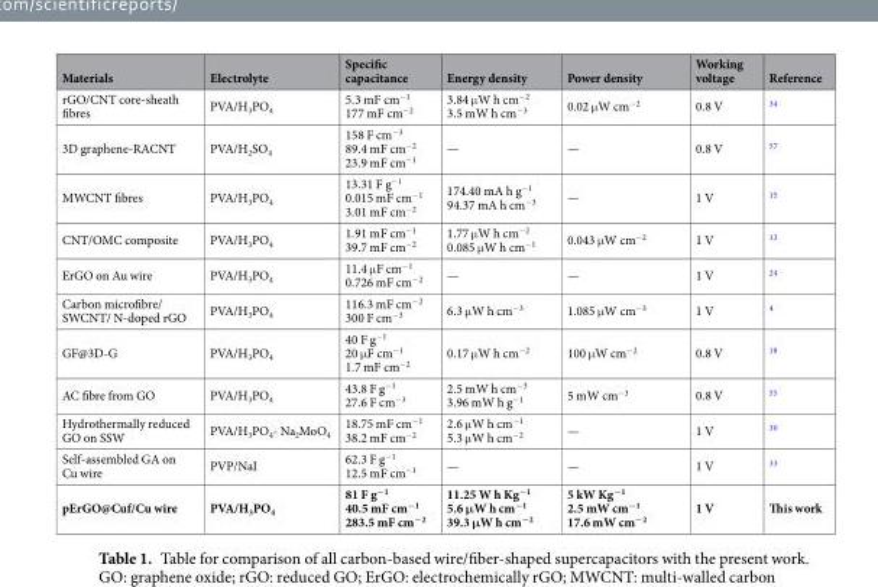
<table><thead><tr><td>Materials</td><td>Electrolyte</td><td>Specific capacitance</td><td>Energy density</td><td>Power density</td><td>Working voltage</td><td>Reference</td></tr></thead><tbody><tr><td>rGO/CNT core-sheath fibres</td><td>PVA/H<sub>3</sub>PO<sub>4</sub></td><td>5.3 mF cm<sup>−1</sup> 177 mF cm<sup>−2</sup></td><td>3.84 μW h cm<sup>−2</sup> 3.5 mW h cm<sup>−3</sup></td><td>0.02 μW cm<sup>−2</sup></td><td>0.8 V</td><td><sup>34</sup></td></tr><tr><td>3D graphene-RACNT</td><td>PVA/H<sub>2</sub>SO<sub>4</sub></td><td>158 F cm<sup>−3</sup> 89.4 mF cm<sup>−2</sup> 23.9 mF cm<sup>−1</sup></td><td>—</td><td>—</td><td>0.8 V</td><td><sup>57</sup></td></tr><tr><td>MWCNT fibres</td><td>PVA/H<sub>3</sub>PO<sub>4</sub></td><td>13.31 F g<sup>−1</sup> 0.015 mF cm<sup>−1</sup> 3.01 mF cm<sup>−2</sup></td><td>174.40 mA h g<sup>−1</sup> 94.37 mA h cm<sup>−3</sup></td><td>—</td><td>1 V</td><td><sup>15</sup></td></tr><tr><td>CNT/OMC composite</td><td>PVA/H<sub>3</sub>PO<sub>4</sub></td><td>1.91 mF cm<sup>−1</sup> 39.7 mF cm<sup>−2</sup></td><td>1.77 μW h cm<sup>−2</sup> 0.085 μW h cm<sup>−1</sup></td><td>0.043 μW cm<sup>−2</sup></td><td>1 V</td><td><sup>13</sup></td></tr><tr><td>ErGO on Au wire</td><td>PVA/H<sub>3</sub>PO<sub>4</sub></td><td>11.4 μF cm<sup>−1</sup> 0.726 mF cm<sup>−2</sup></td><td>—</td><td>—</td><td>1 V</td><td><sup>24</sup></td></tr><tr><td>Carbon microfibre/ SWCNT/ N-doped rGO</td><td>PVA/H<sub>3</sub>PO<sub>4</sub></td><td>116.3 mF cm<sup>−2</sup> 300 F cm<sup>−3</sup></td><td>6.3 μW h cm<sup>−3</sup></td><td>1.085 μW cm<sup>−3</sup></td><td>1 V</td><td><sup>4</sup></td></tr><tr><td>GF@3D-G</td><td>PVA/H<sub>3</sub>PO<sub>4</sub></td><td>40 F g<sup>−1</sup> 20 μF cm<sup>−1</sup> 1.7 mF cm<sup>−2</sup></td><td>0.17 μW h cm<sup>−2</sup></td><td>100 μW cm<sup>−2</sup></td><td>0.8 V</td><td><sup>18</sup></td></tr><tr><td>AC fibre from GO</td><td>PVA/H<sub>3</sub>PO<sub>4</sub></td><td>43.8 F g<sup>−1</sup> 27.6 F cm<sup>−3</sup></td><td>2.5 mW h cm<sup>−3</sup> 3.96 mW h g<sup>−1</sup></td><td>5 mW cm<sup>−3</sup></td><td>0.8 V</td><td><sup>55</sup></td></tr><tr><td>Hydrothermally reduced GO on SSW</td><td>PVA/H<sub>3</sub>PO<sub>4</sub>- Na<sub>2</sub>MoO<sub>4</sub></td><td>18.75 mF cm<sup>−1</sup> 38.2 mF cm<sup>−2</sup></td><td>2.6 μW h cm<sup>−1</sup> 5.3 μW h cm<sup>−2</sup></td><td>—</td><td>1 V</td><td><sup>30</sup></td></tr><tr><td>Self-assembled GA on Cu wire</td><td>PVP/NaI</td><td>62.3 F g<sup>−1</sup> 12.5 mF cm<sup>−1</sup></td><td>—</td><td>—</td><td>1 V</td><td><sup>33</sup></td></tr><tr><td>pErGO@Cuf/Cu wire</td><td>PVA/H<sub>3</sub>PO<sub>4</sub></td><td>81 F g<sup>−1</sup> 40.5 mF cm<sup>−1</sup> 283.5 mF cm<sup>−2</sup></td><td>11.25 W h Kg<sup>−1</sup> 5.6 μW h cm<sup>−1</sup> 39.3 μW h cm<sup>−2</sup></td><td>5 kW Kg<sup>−1</sup> 2.5 mW cm<sup>−1</sup> 17.6 mW cm<sup>−2</sup></td><td>1 V</td><td>This work</td></tr></tbody></table>